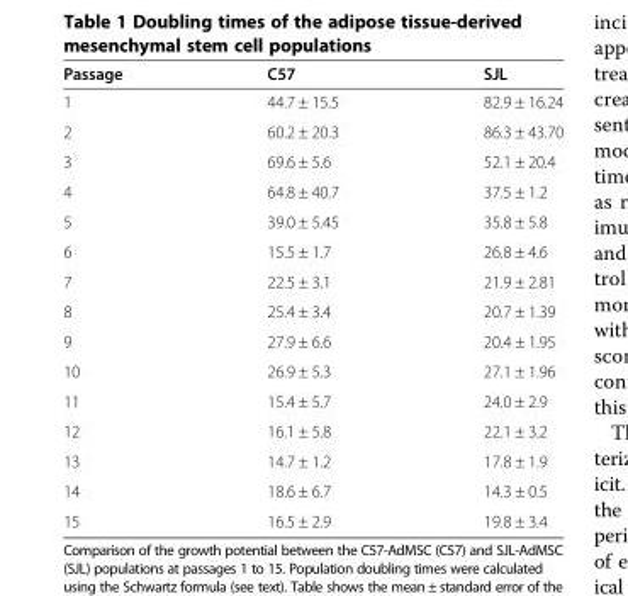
<table><thead><tr><td>Passage</td><td>C57</td><td>SJL</td></tr></thead><tbody><tr><td>1</td><td>44.7 ± 15.5</td><td>82.9 ± 16.24</td></tr><tr><td>2</td><td>60.2 ± 20.3</td><td>86.3 ± 43.70</td></tr><tr><td>3</td><td>69.6 ± 5.6</td><td>52.1 ± 20.4</td></tr><tr><td>4</td><td>64.8 ± 40.7</td><td>37.5 ± 1.2</td></tr><tr><td>5</td><td>39.0 ± 5.45</td><td>35.8 ± 5.8</td></tr><tr><td>6</td><td>15.5 ± 1.7</td><td>26.8 ± 4.6</td></tr><tr><td>7</td><td>22.5 ± 3.1</td><td>21.9 ± 2.81</td></tr><tr><td>8</td><td>25.4 ± 3.4</td><td>20.7 ± 1.39</td></tr><tr><td>9</td><td>27.9 ± 6.6</td><td>20.4 ± 1.95</td></tr><tr><td>10</td><td>26.9 ± 5.3</td><td>27.1 ± 1.96</td></tr><tr><td>11</td><td>15.4 ± 5.7</td><td>24.0 ± 2.9</td></tr><tr><td>12</td><td>16.1 ± 5.8</td><td>22.1 ± 3.2</td></tr><tr><td>13</td><td>14.7 ± 1.2</td><td>17.8 ± 1.9</td></tr><tr><td>14</td><td>18.6 ± 6.7</td><td>14.3 ± 0.5</td></tr><tr><td>15</td><td>16.5 ± 2.9</td><td>19.8 ± 3.4</td></tr></tbody></table>